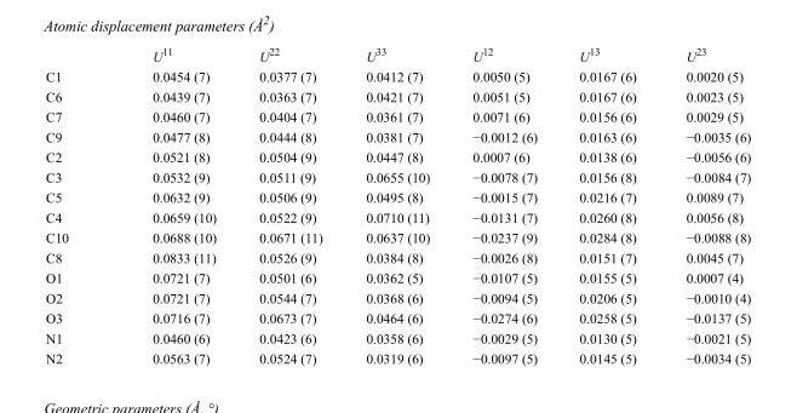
<table><thead><tr><td></td><td>U<sup>11</sup></td><td>U<sup>22</sup></td><td>U<sup>33</sup></td><td>U<sup>12</sup></td><td>U<sup>13</sup></td><td>U<sup>23</sup></td></tr></thead><tbody><tr><td>C1</td><td>0.0454 (7)</td><td>0.0377 (7)</td><td>0.0412 (7)</td><td>0.0050 (5)</td><td>0.0167 (6)</td><td>0.0020 (5)</td></tr><tr><td>C6</td><td>0.0439 (7)</td><td>0.0363 (7)</td><td>0.0421 (7)</td><td>0.0051 (5)</td><td>0.0167 (6)</td><td>0.0023 (5)</td></tr><tr><td>C7</td><td>0.0460 (7)</td><td>0.0404 (7)</td><td>0.0361 (7)</td><td>0.0071 (6)</td><td>0.0156 (6)</td><td>0.0029 (5)</td></tr><tr><td>C9</td><td>0.0477 (8)</td><td>0.0444 (8)</td><td>0.0381 (7)</td><td>−0.0012 (6)</td><td>0.0163 (6)</td><td>−0.0035 (6)</td></tr><tr><td>C2</td><td>0.0521 (8)</td><td>0.0504 (9)</td><td>0.0447 (8)</td><td>0.0007 (6)</td><td>0.0138 (6)</td><td>−0.0056 (6)</td></tr><tr><td>C3</td><td>0.0532 (9)</td><td>0.0511 (9)</td><td>0.0655 (10)</td><td>−0.0078 (7)</td><td>0.0156 (8)</td><td>−0.0084 (7)</td></tr><tr><td>C5</td><td>0.0632 (9)</td><td>0.0506 (9)</td><td>0.0495 (8)</td><td>−0.0015 (7)</td><td>0.0216 (7)</td><td>0.0089 (7)</td></tr><tr><td>C4</td><td>0.0659 (10)</td><td>0.0522 (9)</td><td>0.0710 (11)</td><td>−0.0131 (7)</td><td>0.0260 (8)</td><td>0.0056 (8)</td></tr><tr><td>C10</td><td>0.0688 (10)</td><td>0.0671 (11)</td><td>0.0637 (10)</td><td>−0.0237 (9)</td><td>0.0284 (8)</td><td>−0.0088 (8)</td></tr><tr><td>C8</td><td>0.0833 (11)</td><td>0.0526 (9)</td><td>0.0384 (8)</td><td>−0.0026 (8)</td><td>0.0151 (7)</td><td>0.0045 (7)</td></tr><tr><td>O1</td><td>0.0721 (7)</td><td>0.0501 (6)</td><td>0.0362 (5)</td><td>−0.0107 (5)</td><td>0.0155 (5)</td><td>0.0007 (4)</td></tr><tr><td>O2</td><td>0.0721 (7)</td><td>0.0544 (7)</td><td>0.0368 (6)</td><td>−0.0094 (5)</td><td>0.0206 (5)</td><td>−0.0010 (4)</td></tr><tr><td>O3</td><td>0.0716 (7)</td><td>0.0673 (7)</td><td>0.0464 (6)</td><td>−0.0274 (6)</td><td>0.0258 (5)</td><td>−0.0137 (5)</td></tr><tr><td>N1</td><td>0.0460 (6)</td><td>0.0423 (6)</td><td>0.0358 (6)</td><td>−0.0029 (5)</td><td>0.0130 (5)</td><td>−0.0021 (5)</td></tr><tr><td>N2</td><td>0.0563 (7)</td><td>0.0524 (7)</td><td>0.0319 (6)</td><td>−0.0097 (5)</td><td>0.0145 (5)</td><td>−0.0034 (5)</td></tr></tbody></table>